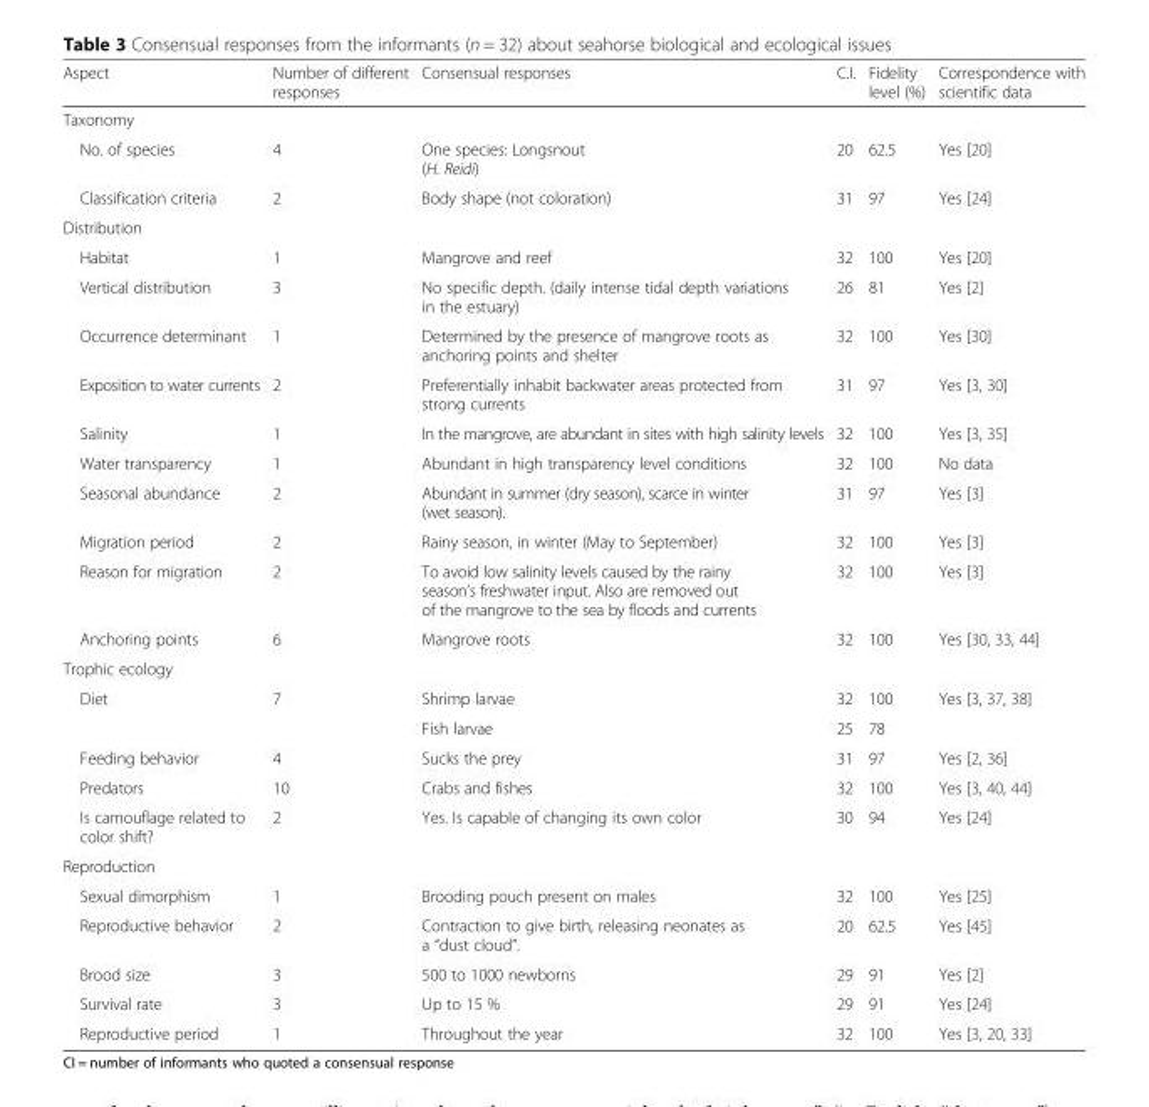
<table><thead><tr><td>Aspect</td><td>Number of different responses</td><td>Consensual responses</td><td>C.I.</td><td>Fidelity level (%)</td><td>Correspondence with scientific data</td></tr></thead><tbody><tr><td colspan="6">Taxonomy</td></tr><tr><td>No. of species</td><td>4</td><td>One species: Longsnout (H. Reidi)</td><td>20</td><td>62.5</td><td>Yes [20]</td></tr><tr><td>Classification criteria</td><td>2</td><td>Body shape (not coloration)</td><td>31</td><td>97</td><td>Yes [24]</td></tr><tr><td colspan="6">Distribution</td></tr><tr><td>Habitat</td><td>1</td><td>Mangrove and reef</td><td>32</td><td>100</td><td>Yes [20]</td></tr><tr><td>Vertical distribution</td><td>3</td><td>No specific depth. (daily intense tidal depth variations in the estuary)</td><td>26</td><td>81</td><td>Yes [2]</td></tr><tr><td>Occurrence determinant</td><td>1</td><td>Determined by the presence of mangrove roots as anchoring points and shelter</td><td>32</td><td>100</td><td>Yes [30]</td></tr><tr><td>Exposition to water currents</td><td>2</td><td>Preferentially inhabit backwater areas protected from strong currents</td><td>31</td><td>97</td><td>Yes [3, 30]</td></tr><tr><td>Salinity</td><td>1</td><td>In the mangrove, are abundant in sites with high salinity levels</td><td>32</td><td>100</td><td>Yes [3, 35]</td></tr><tr><td>Water transparency</td><td>1</td><td>Abundant in high transparency level conditions</td><td>32</td><td>100</td><td>No data</td></tr><tr><td>Seasonal abundance</td><td>2</td><td>Abundant in summer (dry season), scarce in winter (wet season).</td><td>31</td><td>97</td><td>Yes [3]</td></tr><tr><td>Migration period</td><td>2</td><td>Rainy season, in winter (May to September)</td><td>32</td><td>100</td><td>Yes [3]</td></tr><tr><td>Reason for migration</td><td>2</td><td>To avoid low salinity levels caused by the rainy season’s freshwater input. Also are removed out of the mangrove to the sea by floods and currents</td><td>32</td><td>100</td><td>Yes [3]</td></tr><tr><td>Anchoring points</td><td>6</td><td>Mangrove roots</td><td>32</td><td>100</td><td>Yes [30, 33, 44]</td></tr><tr><td colspan="6">Trophic ecology</td></tr><tr><td rowspan="2">Diet</td><td>7</td><td>Shrimp larvae</td><td>32</td><td>100</td><td>Yes [3, 37, 38]</td></tr><tr><td></td><td>Fish larvae</td><td>25</td><td>78</td><td></td></tr><tr><td>Feeding behavior</td><td>4</td><td>Sucks the prey</td><td>31</td><td>97</td><td>Yes [2, 36]</td></tr><tr><td>Predators</td><td>10</td><td>Crabs and fishes</td><td>32</td><td>100</td><td>Yes [3, 40, 44]</td></tr><tr><td>Is camouflage related to color shift?</td><td>2</td><td>Yes. Is capable of changing its own color</td><td>30</td><td>94</td><td>Yes [24]</td></tr><tr><td colspan="6">Reproduction</td></tr><tr><td>Sexual dimorphism</td><td>1</td><td>Brooding pouch present on males</td><td>32</td><td>100</td><td>Yes [25]</td></tr><tr><td>Reproductive behavior</td><td>2</td><td>Contraction to give birth, releasing neonates as a “dust cloud”.</td><td>20</td><td>62.5</td><td>Yes [45]</td></tr><tr><td>Brood size</td><td>3</td><td>500 to 1000 newborns</td><td>29</td><td>91</td><td>Yes [2]</td></tr><tr><td>Survival rate</td><td>3</td><td>Up to 15 %</td><td>29</td><td>91</td><td>Yes [24]</td></tr><tr><td>Reproductive period</td><td>1</td><td>Throughout the year</td><td>32</td><td>100</td><td>Yes [3, 20, 33]</td></tr></tbody></table>